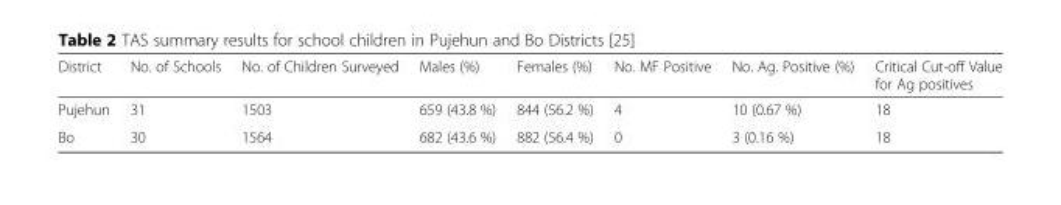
<table><thead><tr><td>District</td><td>No. of Schools</td><td>No. of Children Surveyed</td><td>Males (%)</td><td>Females (%)</td><td>No. MF Positive</td><td>No. Ag. Positive (%)</td><td>Critical Cut-off Value for Ag positives</td></tr></thead><tbody><tr><td>Pujehun</td><td>31</td><td>1503</td><td>659 (43.8 %)</td><td>844 (56.2 %)</td><td>4</td><td>10 (0.67 %)</td><td>18</td></tr><tr><td>Bo</td><td>30</td><td>1564</td><td>682 (43.6 %)</td><td>882 (56.4 %)</td><td>0</td><td>3 (0.16 %)</td><td>18</td></tr></tbody></table>